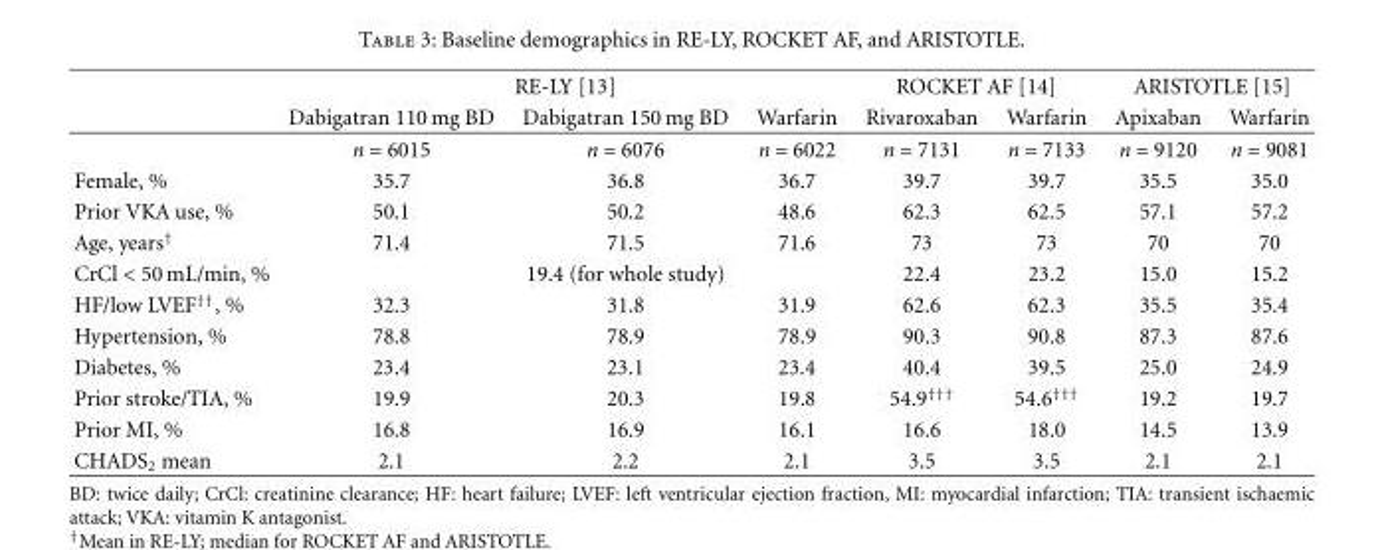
<table><thead><tr><td rowspan="2"></td><td colspan="3">RE-LY [13]</td><td colspan="2">ROCKET AF [14]</td><td colspan="2">ARISTOTLE [15]</td></tr><tr><td>Dabigatran 110 mg BD</td><td>Dabigatran 150 mg BD</td><td>Warfarin</td><td>Rivaroxaban</td><td>Warfarin</td><td>Apixaban</td><td>Warfarin</td></tr></thead><tbody><tr><td></td><td>n = 6015</td><td>n = 6076</td><td>n = 6022</td><td>n = 7131</td><td>n = 7133</td><td>n = 9120</td><td>n = 9081</td></tr><tr><td>Female, %</td><td>35.7</td><td>36.8</td><td>36.7</td><td>39.7</td><td>39.7</td><td>35.5</td><td>35.0</td></tr><tr><td>Prior VKA use, %</td><td>50.1</td><td>50.2</td><td>48.6</td><td>62.3</td><td>62.5</td><td>57.1</td><td>57.2</td></tr><tr><td>Age, years<sup>†</sup></td><td>71.4</td><td>71.5</td><td>71.6</td><td>73</td><td>73</td><td>70</td><td>70</td></tr><tr><td>CrCl &lt; 50 mL/min, %</td><td></td><td>19.4 (for whole study)</td><td></td><td>22.4</td><td>23.2</td><td>15.0</td><td>15.2</td></tr><tr><td>HF/low LVEF<sup>††</sup>, %</td><td>32.3</td><td>31.8</td><td>31.9</td><td>62.6</td><td>62.3</td><td>35.5</td><td>35.4</td></tr><tr><td>Hypertension, %</td><td>78.8</td><td>78.9</td><td>78.9</td><td>90.3</td><td>90.8</td><td>87.3</td><td>87.6</td></tr><tr><td>Diabetes, %</td><td>23.4</td><td>23.1</td><td>23.4</td><td>40.4</td><td>39.5</td><td>25.0</td><td>24.9</td></tr><tr><td>Prior stroke/TIA, %</td><td>19.9</td><td>20.3</td><td>19.8</td><td>54.9<sup>†††</sup></td><td>54.6<sup>†††</sup></td><td>19.2</td><td>19.7</td></tr><tr><td>Prior MI, %</td><td>16.8</td><td>16.9</td><td>16.1</td><td>16.6</td><td>18.0</td><td>14.5</td><td>13.9</td></tr><tr><td>CHADS<sub>2</sub> mean</td><td>2.1</td><td>2.2</td><td>2.1</td><td>3.5</td><td>3.5</td><td>2.1</td><td>2.1</td></tr></tbody></table>